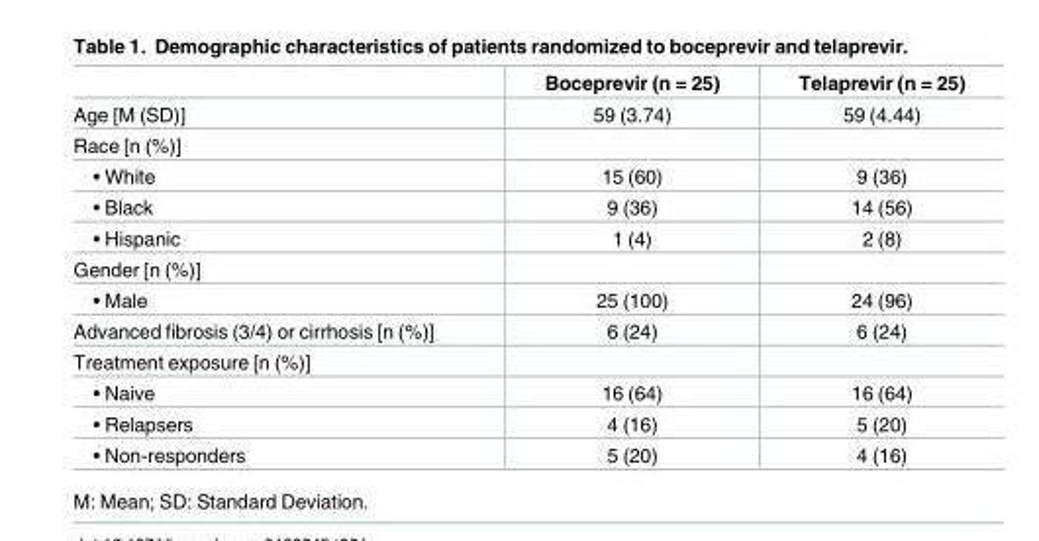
<table><thead><tr><td></td><td>Boceprevir (n = 25)</td><td>Telaprevir (n = 25)</td></tr></thead><tbody><tr><td>Age [M (SD)]</td><td>59 (3.74)</td><td>59 (4.44)</td></tr><tr><td colspan="3">Race [n (%)]</td></tr><tr><td>• White</td><td>15 (60)</td><td>9 (36)</td></tr><tr><td>• Black</td><td>9 (36)</td><td>14 (56)</td></tr><tr><td>• Hispanic</td><td>1 (4)</td><td>2 (8)</td></tr><tr><td colspan="3">Gender [n (%)]</td></tr><tr><td>• Male</td><td>25 (100)</td><td>24 (96)</td></tr><tr><td>Advanced fibrosis (3/4) or cirrhosis [n (%)]</td><td>6 (24)</td><td>6 (24)</td></tr><tr><td colspan="3">Treatment exposure [n (%)]</td></tr><tr><td>• Naive</td><td>16 (64)</td><td>16 (64)</td></tr><tr><td>• Relapsers</td><td>4 (16)</td><td>5 (20)</td></tr><tr><td>• Non-responders</td><td>5 (20)</td><td>4 (16)</td></tr></tbody></table>